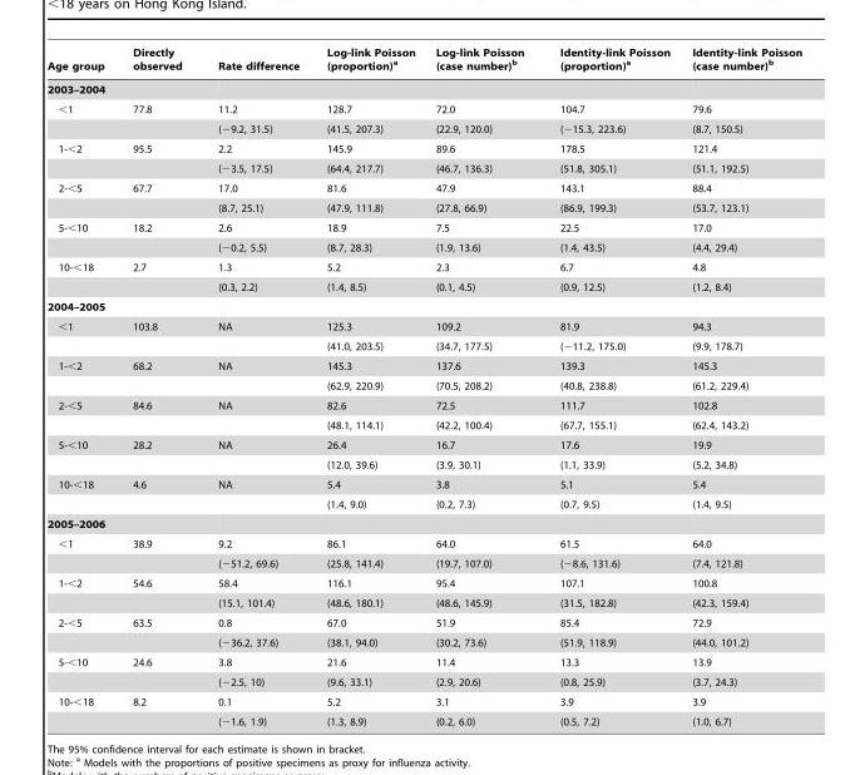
<table><thead><tr><td>Age group</td><td>Directly observed</td><td>Rate difference</td><td>Log-link Poisson (proportion)<sup>a</sup></td><td>Log-link Poisson (case number)<sup>b</sup></td><td>Identity-link Poisson (proportion)<sup>a</sup></td><td>Identity-link Poisson (case number)<sup>b</sup></td></tr></thead><tbody><tr><td colspan="7">2003–2004</td></tr><tr><td rowspan="2">&lt;1</td><td>77.8</td><td>11.2</td><td>128.7</td><td>72.0</td><td>104.7</td><td>79.6</td></tr><tr><td></td><td>(−9.2, 31.5)</td><td>(41.5, 207.3)</td><td>(22.9, 120.0)</td><td>(−15.3, 223.6)</td><td>(8.7, 150.5)</td></tr><tr><td rowspan="2">1-&lt;2</td><td>95.5</td><td>2.2</td><td>145.9</td><td>89.6</td><td>178.5</td><td>121.4</td></tr><tr><td></td><td>(−3.5, 17.5)</td><td>(64.4, 217.7)</td><td>(46.7, 136.3)</td><td>(51.8, 305.1)</td><td>(51.1, 192.5)</td></tr><tr><td rowspan="2">2-&lt;5</td><td>67.7</td><td>17.0</td><td>81.6</td><td>47.9</td><td>143.1</td><td>88.4</td></tr><tr><td></td><td>(8.7, 25.1)</td><td>(47.9, 111.8)</td><td>(27.8, 66.9)</td><td>(86.9, 199.3)</td><td>(53.7, 123.1)</td></tr><tr><td rowspan="2">5-&lt;10</td><td>18.2</td><td>2.6</td><td>18.9</td><td>7.5</td><td>22.5</td><td>17.0</td></tr><tr><td></td><td>(−0.2, 5.5)</td><td>(8.7, 28.3)</td><td>(1.9, 13.6)</td><td>(1.4, 43.5)</td><td>(4.4, 29.4)</td></tr><tr><td rowspan="2">10-&lt;18</td><td>2.7</td><td>1.3</td><td>5.2</td><td>2.3</td><td>6.7</td><td>4.8</td></tr><tr><td></td><td>(0.3, 2.2)</td><td>(1.4, 8.5)</td><td>(0.1, 4.5)</td><td>(0.9, 12.5)</td><td>(1.2, 8.4)</td></tr><tr><td colspan="7">2004–2005</td></tr><tr><td rowspan="2">&lt;1</td><td>103.8</td><td>NA</td><td>125.3</td><td>109.2</td><td>81.9</td><td>94.3</td></tr><tr><td></td><td></td><td>(41.0, 203.5)</td><td>(34.7, 177.5)</td><td>(−11.2, 175.0)</td><td>(9.9, 178.7)</td></tr><tr><td rowspan="2">1-&lt;2</td><td>68.2</td><td>NA</td><td>145.3</td><td>137.6</td><td>139.3</td><td>145.3</td></tr><tr><td></td><td></td><td>(62.9, 220.9)</td><td>(70.5, 208.2)</td><td>(40.8, 238.8)</td><td>(61.2, 229.4)</td></tr><tr><td rowspan="2">2-&lt;5</td><td>84.6</td><td>NA</td><td>82.6</td><td>72.5</td><td>111.7</td><td>102.8</td></tr><tr><td></td><td></td><td>(48.1, 114.1)</td><td>(42.2, 100.4)</td><td>(67.7, 155.1)</td><td>(62.4, 143.2)</td></tr><tr><td rowspan="2">5-&lt;10</td><td>28.2</td><td>NA</td><td>26.4</td><td>16.7</td><td>17.6</td><td>19.9</td></tr><tr><td></td><td></td><td>(12.0, 39.6)</td><td>(3.9, 30.1)</td><td>(1.1, 33.9)</td><td>(5.2, 34.8)</td></tr><tr><td rowspan="2">10-&lt;18</td><td>4.6</td><td>NA</td><td>5.4</td><td>3.8</td><td>5.1</td><td>5.4</td></tr><tr><td></td><td></td><td>(1.4, 9.0)</td><td>(0.2, 7.3)</td><td>(0.7, 9.5)</td><td>(1.4, 9.5)</td></tr><tr><td colspan="7">2005–2006</td></tr><tr><td rowspan="2">&lt;1</td><td>38.9</td><td>9.2</td><td>86.1</td><td>64.0</td><td>61.5</td><td>64.0</td></tr><tr><td></td><td>(−51.2, 69.6)</td><td>(25.8, 141.4)</td><td>(19.7, 107.0)</td><td>(−8.6, 131.6)</td><td>(7.4, 121.8)</td></tr><tr><td rowspan="2">1-&lt;2</td><td>54.6</td><td>58.4</td><td>116.1</td><td>95.4</td><td>107.1</td><td>100.8</td></tr><tr><td></td><td>(15.1, 101.4)</td><td>(48.6, 180.1)</td><td>(48.6, 145.9)</td><td>(31.5, 182.8)</td><td>(42.3, 159.4)</td></tr><tr><td rowspan="2">2-&lt;5</td><td>63.5</td><td>0.8</td><td>67.0</td><td>51.9</td><td>85.4</td><td>72.9</td></tr><tr><td></td><td>(−36.2, 37.6)</td><td>(38.1, 94.0)</td><td>(30.2, 73.6)</td><td>(51.9, 118.9)</td><td>(44.0, 101.2)</td></tr><tr><td rowspan="2">5-&lt;10</td><td>24.6</td><td>3.8</td><td>21.6</td><td>11.4</td><td>13.3</td><td>13.9</td></tr><tr><td></td><td>(−2.5, 10)</td><td>(9.6, 33.1)</td><td>(2.9, 20.6)</td><td>(0.8, 25.9)</td><td>(3.7, 24.3)</td></tr><tr><td rowspan="2">10-&lt;18</td><td>8.2</td><td>0.1</td><td>5.2</td><td>3.1</td><td>3.9</td><td>3.9</td></tr><tr><td></td><td>(−1.6, 1.9)</td><td>(1.3, 8.9)</td><td>(0.2, 6.0)</td><td>(0.5, 7.2)</td><td>(1.0, 6.7)</td></tr></tbody></table>